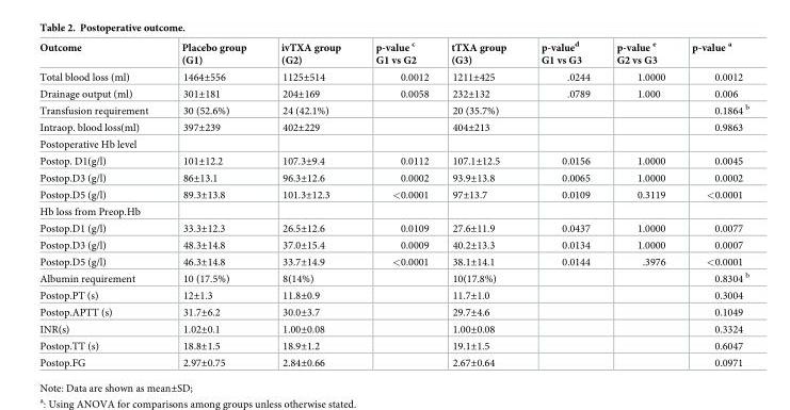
<table><thead><tr><td>Outcome</td><td>Placebo group (G1)</td><td>ivTXA group (G2)</td><td>p-value <sup>c</sup> G1 vs G2</td><td>tTXA group (G3)</td><td>p-value<sup>d</sup> G1 vs G3</td><td>p-value <sup>e</sup> G2 vs G3</td><td>p-value <sup>a</sup></td></tr></thead><tbody><tr><td>Total blood loss (ml)</td><td>1464±556</td><td>1125±514</td><td>0.0012</td><td>1211±425</td><td>.0244</td><td>1.0000</td><td>0.0012</td></tr><tr><td>Drainage output (ml)</td><td>301±181</td><td>204±169</td><td>0.0058</td><td>232±132</td><td>.0789</td><td>1.000</td><td>0.006</td></tr><tr><td>Transfusion requirement</td><td>30 (52.6%)</td><td>24 (42.1%)</td><td></td><td>20 (35.7%)</td><td></td><td></td><td>0.1864 <sup>b</sup></td></tr><tr><td>Intraop. blood loss(ml)</td><td>397±239</td><td>402±229</td><td></td><td>404±213</td><td></td><td></td><td>0.9863</td></tr><tr><td colspan="8">Postoperative Hb level</td></tr><tr><td>Postop. D1(g/l)</td><td>101±12.2</td><td>107.3±9.4</td><td>0.0112</td><td>107.1±12.5</td><td>0.0156</td><td>1.0000</td><td>0.0045</td></tr><tr><td>Postop.D3 (g/l)</td><td>86±13.1</td><td>96.3±12.6</td><td>0.0002</td><td>93.9±13.8</td><td>0.0065</td><td>1.0000</td><td>0.0002</td></tr><tr><td>Postop.D5 (g/l)</td><td>89.3±13.8</td><td>101.3±12.3</td><td>&lt;0.0001</td><td>97±13.7</td><td>0.0109</td><td>0.3119</td><td>&lt;0.0001</td></tr><tr><td colspan="8">Hb loss from Preop.Hb</td></tr><tr><td>Postop.D1 (g/l)</td><td>33.3±12.3</td><td>26.5±12.6</td><td>0.0109</td><td>27.6±11.9</td><td>0.0437</td><td>1.0000</td><td>0.0077</td></tr><tr><td>Postop.D3 (g/l)</td><td>48.3±14.8</td><td>37.0±15.4</td><td>0.0009</td><td>40.2±13.3</td><td>0.0134</td><td>1.0000</td><td>0.0007</td></tr><tr><td>Postop.D5 (g/l)</td><td>46.3±14.8</td><td>33.7±14.9</td><td>&lt;0.0001</td><td>38.1±14.1</td><td>0.0144</td><td>.3976</td><td>&lt;0.0001</td></tr><tr><td>Albumin requirement</td><td>10 (17.5%)</td><td>8(14%)</td><td></td><td>10(17.8%)</td><td></td><td></td><td>0.8304 <sup>b</sup></td></tr><tr><td>Postop.PT (s)</td><td>12±1.3</td><td>11.8±0.9</td><td></td><td>11.7±1.0</td><td></td><td></td><td>0.3004</td></tr><tr><td>Postop.APTT (s)</td><td>31.7±6.2</td><td>30.0±3.7</td><td></td><td>29.7±4.6</td><td></td><td></td><td>0.1049</td></tr><tr><td>INR(s)</td><td>1.02±0.1</td><td>1.00±0.08</td><td></td><td>1.00±0.08</td><td></td><td></td><td>0.3324</td></tr><tr><td>Postop.TT (s)</td><td>18.8±1.5</td><td>18.9±1.2</td><td></td><td>19.1±1.5</td><td></td><td></td><td>0.6047</td></tr><tr><td>Postop.FG</td><td>2.97±0.75</td><td>2.84±0.66</td><td></td><td>2.67±0.64</td><td></td><td></td><td>0.0971</td></tr></tbody></table>